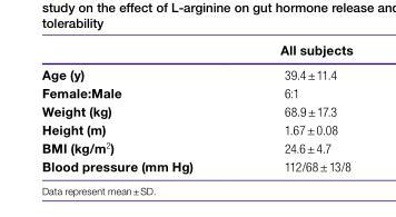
<table><thead><tr><td></td><td>All subjects</td></tr></thead><tbody><tr><td>Age (y)</td><td>39.4 ± 11.4</td></tr><tr><td>Female:Male</td><td>6:1</td></tr><tr><td>Weight (kg)</td><td>68.9 ± 17.3</td></tr><tr><td>Height (m)</td><td>1.67 ± 0.08</td></tr><tr><td>BMI (kg/m<sup>2</sup>)</td><td>24.6 ± 4.7</td></tr><tr><td>Blood pressure (mm Hg)</td><td>112/68 ± 13/8</td></tr></tbody></table>